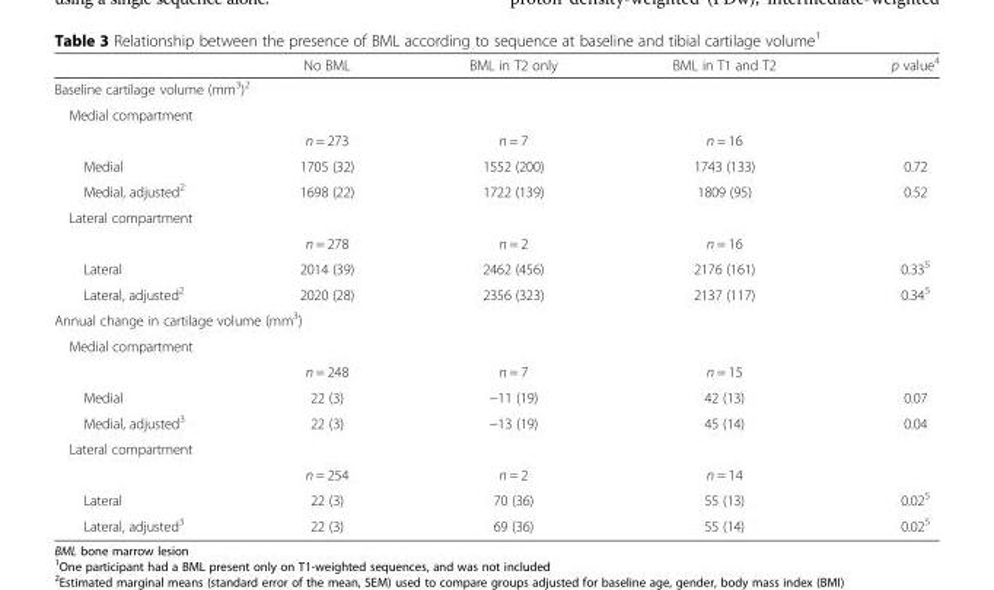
<table><thead><tr><td></td><td>No BML</td><td>BML in T2 only</td><td>BML in T1 and T2</td><td>p value<sup>4</sup></td></tr></thead><tbody><tr><td colspan="5">Baseline cartilage volume (mm<sup>3</sup>)<sup>2</sup></td></tr><tr><td colspan="5">Medial compartment</td></tr><tr><td></td><td>n = 273</td><td>n = 7</td><td>n = 16</td><td></td></tr><tr><td>Medial</td><td>1705 (32)</td><td>1552 (200)</td><td>1743 (133)</td><td>0.72</td></tr><tr><td>Medial, adjusted<sup>2</sup></td><td>1698 (22)</td><td>1722 (139)</td><td>1809 (95)</td><td>0.52</td></tr><tr><td colspan="5">Lateral compartment</td></tr><tr><td></td><td>n = 278</td><td>n = 2</td><td>n = 16</td><td></td></tr><tr><td>Lateral</td><td>2014 (39)</td><td>2462 (456)</td><td>2176 (161)</td><td>0.33<sup>5</sup></td></tr><tr><td>Lateral, adjusted<sup>2</sup></td><td>2020 (28)</td><td>2356 (323)</td><td>2137 (117)</td><td>0.34<sup>5</sup></td></tr><tr><td colspan="5">Annual change in cartilage volume (mm<sup>3</sup>)</td></tr><tr><td colspan="5">Medial compartment</td></tr><tr><td></td><td>n = 248</td><td>n = 7</td><td>n = 15</td><td></td></tr><tr><td>Medial</td><td>22 (3)</td><td>−11 (19)</td><td>42 (13)</td><td>0.07</td></tr><tr><td>Medial, adjusted<sup>3</sup></td><td>22 (3)</td><td>−13 (19)</td><td>45 (14)</td><td>0.04</td></tr><tr><td colspan="5">Lateral compartment</td></tr><tr><td></td><td>n = 254</td><td>n = 2</td><td>n = 14</td><td></td></tr><tr><td>Lateral</td><td>22 (3)</td><td>70 (36)</td><td>55 (13)</td><td>0.02<sup>5</sup></td></tr><tr><td>Lateral, adjusted<sup>3</sup></td><td>22 (3)</td><td>69 (36)</td><td>55 (14)</td><td>0.02<sup>5</sup></td></tr></tbody></table>